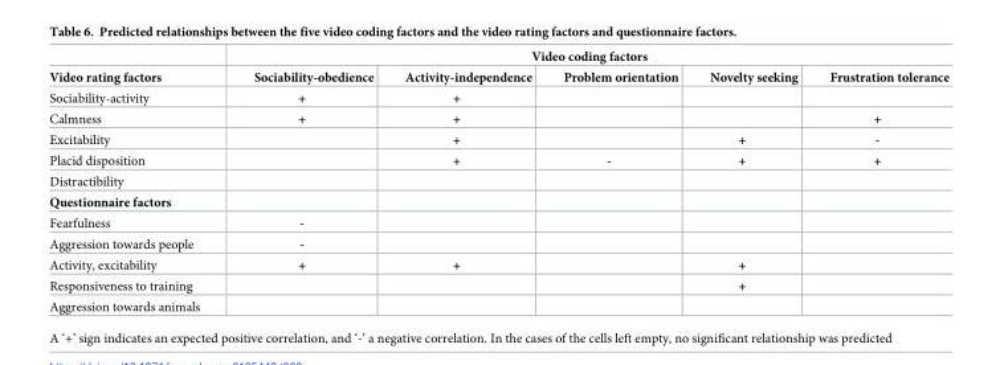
<table><thead><tr><td rowspan="2">Video rating factors</td><td colspan="5">Video coding factors</td></tr><tr><td>Sociability-obedience</td><td>Activity-independence</td><td>Problem orientation</td><td>Novelty seeking</td><td>Frustration tolerance</td></tr></thead><tbody><tr><td>Sociability-activity</td><td>+</td><td>+</td><td></td><td></td><td></td></tr><tr><td>Calmness</td><td>+</td><td>+</td><td></td><td></td><td>+</td></tr><tr><td>Excitability</td><td></td><td>+</td><td></td><td>+</td><td>-</td></tr><tr><td>Placid disposition</td><td></td><td>+</td><td>-</td><td>+</td><td>+</td></tr><tr><td colspan="6">Distractibility</td></tr><tr><td colspan="6">Questionnaire factors</td></tr><tr><td>Fearfulness</td><td>-</td><td></td><td></td><td></td><td></td></tr><tr><td>Aggression towards people</td><td>-</td><td></td><td></td><td></td><td></td></tr><tr><td>Activity, excitability</td><td>+</td><td>+</td><td></td><td>+</td><td></td></tr><tr><td>Responsiveness to training</td><td></td><td></td><td></td><td>+</td><td></td></tr><tr><td>Aggression towards animals</td><td></td><td></td><td></td><td></td><td></td></tr></tbody></table>